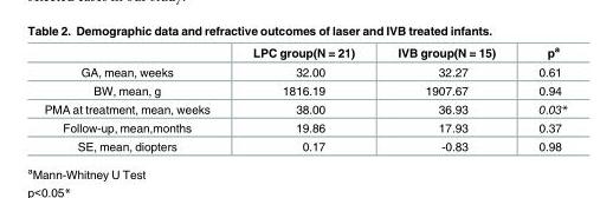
<table><thead><tr><td></td><td>LPC group(N = 21)</td><td>IVB group(N = 15)</td><td>p<sup>a</sup></td></tr></thead><tbody><tr><td>GA, mean, weeks</td><td>32.00</td><td>32.27</td><td>0.61</td></tr><tr><td>BW, mean, g</td><td>1816.19</td><td>1907.67</td><td>0.94</td></tr><tr><td>PMA at treatment, mean, weeks</td><td>38.00</td><td>36.93</td><td>0.03*</td></tr><tr><td>Follow-up, mean,months</td><td>19.86</td><td>17.93</td><td>0.37</td></tr><tr><td>SE, mean, diopters</td><td>0.17</td><td>-0.83</td><td>0.98</td></tr></tbody></table>